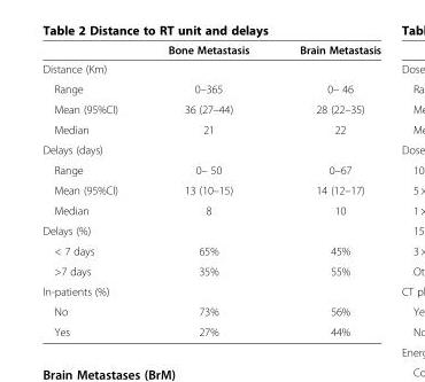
<table><thead><tr><td></td><td>Bone Metastasis</td><td>Brain Metastasis</td></tr></thead><tbody><tr><td colspan="3">Distance (Km)</td></tr><tr><td>Range</td><td>0–365</td><td>0– 46</td></tr><tr><td>Mean (95%CI)</td><td>36 (27–44)</td><td>28 (22–35)</td></tr><tr><td>Median</td><td>21</td><td>22</td></tr><tr><td colspan="3">Delays (days)</td></tr><tr><td>Range</td><td>0– 50</td><td>0–67</td></tr><tr><td>Mean (95%CI)</td><td>13 (10–15)</td><td>14 (12–17)</td></tr><tr><td>Median</td><td>8</td><td>10</td></tr><tr><td colspan="3">Delays (%)</td></tr><tr><td>&lt; 7 days</td><td>65%</td><td>45%</td></tr><tr><td>&gt;7 days</td><td>35%</td><td>55%</td></tr><tr><td colspan="3">In-patients (%)</td></tr><tr><td>No</td><td>73%</td><td>56%</td></tr><tr><td>Yes</td><td>27%</td><td>44%</td></tr></tbody></table>